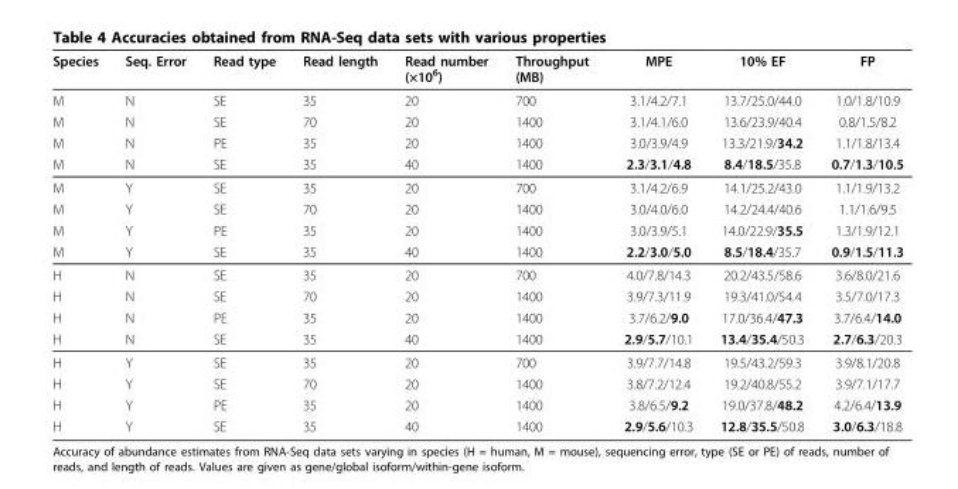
<table><thead><tr><td>Species</td><td>Seq. Error</td><td>Read type</td><td>Read length</td><td>Read number (×10<sup>6</sup>)</td><td>Throughput (MB)</td><td>MPE</td><td>10% EF</td><td>FP</td></tr></thead><tbody><tr><td>M</td><td>N</td><td>SE</td><td>35</td><td>20</td><td>700</td><td>3.1/4.2/7.1</td><td>13.7/25.0/44.0</td><td>1.0/1.8/10.9</td></tr><tr><td>M</td><td>N</td><td>SE</td><td>70</td><td>20</td><td>1400</td><td>3.1/4.1/6.0</td><td>13.6/23.9/40.4</td><td>0.8/1.5/8.2</td></tr><tr><td>M</td><td>N</td><td>PE</td><td>35</td><td>20</td><td>1400</td><td>3.0/3.9/4.9</td><td>13.3/21.9/34.2</td><td>1.1/1.8/13.4</td></tr><tr><td>M</td><td>N</td><td>SE</td><td>35</td><td>40</td><td>1400</td><td>2.3/3.1/4.8</td><td>8.4/18.5/35.8</td><td>0.7/1.3/10.5</td></tr><tr><td>M</td><td>Y</td><td>SE</td><td>35</td><td>20</td><td>700</td><td>3.1/4.2/6.9</td><td>14.1/25.2/43.0</td><td>1.1/1.9/13.2</td></tr><tr><td>M</td><td>Y</td><td>SE</td><td>70</td><td>20</td><td>1400</td><td>3.0/4.0/6.0</td><td>14.2/24.4/40.6</td><td>1.1/1.6/9.5</td></tr><tr><td>M</td><td>Y</td><td>PE</td><td>35</td><td>20</td><td>1400</td><td>3.0/3.9/5.1</td><td>14.0/22.9/35.5</td><td>1.3/1.9/12.1</td></tr><tr><td>M</td><td>Y</td><td>SE</td><td>35</td><td>40</td><td>1400</td><td>2.2/3.0/5.0</td><td>8.5/18.4/35.7</td><td>0.9/1.5/11.3</td></tr><tr><td>H</td><td>N</td><td>SE</td><td>35</td><td>20</td><td>700</td><td>4.0/7.8/14.3</td><td>20.2/43.5/58.6</td><td>3.6/8.0/21.6</td></tr><tr><td>H</td><td>N</td><td>SE</td><td>70</td><td>20</td><td>1400</td><td>3.9/7.3/11.9</td><td>19.3/41.0/54.4</td><td>3.5/7.0/17.3</td></tr><tr><td>H</td><td>N</td><td>PE</td><td>35</td><td>20</td><td>1400</td><td>3.7/6.2/9.0</td><td>17.0/36.4/47.3</td><td>3.7/6.4/14.0</td></tr><tr><td>H</td><td>N</td><td>SE</td><td>35</td><td>40</td><td>1400</td><td>2.9/5.7/10.1</td><td>13.4/35.4/50.3</td><td>2.7/6.3/20.3</td></tr><tr><td>H</td><td>Y</td><td>SE</td><td>35</td><td>20</td><td>700</td><td>3.9/7.7/14.8</td><td>19.5/43.2/59.3</td><td>3.9/8.1/20.8</td></tr><tr><td>H</td><td>Y</td><td>SE</td><td>70</td><td>20</td><td>1400</td><td>3.8/7.2/12.4</td><td>19.2/40.8/55.2</td><td>3.9/7.1/17.7</td></tr><tr><td>H</td><td>Y</td><td>PE</td><td>35</td><td>20</td><td>1400</td><td>3.8/6.5/9.2</td><td>19.0/37.8/48.2</td><td>4.2/6.4/13.9</td></tr><tr><td>H</td><td>Y</td><td>SE</td><td>35</td><td>40</td><td>1400</td><td>2.9/5.6/10.3</td><td>12.8/35.5/50.8</td><td>3.0/6.3/18.8</td></tr></tbody></table>